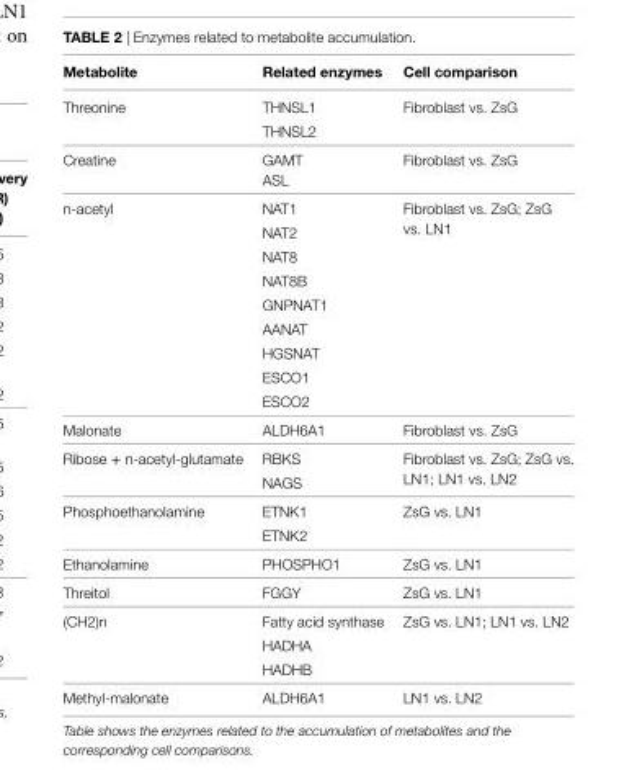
<table><thead><tr><td>Metabolite</td><td>related enzymes</td><td>cell comparison</td></tr></thead><tbody><tr><td rowspan="2">Threonine</td><td>THNSL1</td><td rowspan="2">Fibroblast vs. ZsG</td></tr><tr><td>THNSL2</td></tr><tr><td rowspan="2">Creatine</td><td>GAMT</td><td rowspan="2">Fibroblast vs. ZsG</td></tr><tr><td>ASL</td></tr><tr><td rowspan="9">n-acetyl</td><td>NAT1</td><td rowspan="9">Fibroblast vs. ZsG; ZsG vs. LN1</td></tr><tr><td>NAT2</td></tr><tr><td>NAT8</td></tr><tr><td>NAT8B</td></tr><tr><td>GNPNAT1</td></tr><tr><td>AANAT</td></tr><tr><td>HGSNAT</td></tr><tr><td>ESCO1</td></tr><tr><td>ESCO2</td></tr><tr><td>Malonate</td><td>ALDH6A1</td><td>Fibroblast vs. ZsG</td></tr><tr><td rowspan="2">Ribose + n-acetyl-glutamate</td><td>RBKS</td><td rowspan="2">Fibroblast vs. ZsG; ZsG vs. LN1; LN1 vs. LN2</td></tr><tr><td>NAGS</td></tr><tr><td rowspan="2">Phosphoethanolamine</td><td>ETNK1</td><td rowspan="2">ZsG vs. LN1</td></tr><tr><td>ETNK2</td></tr><tr><td>Ethanolamine</td><td>PHOSPHO1</td><td>ZsG vs. LN1</td></tr><tr><td>Threitol</td><td>FGGY</td><td>ZsG vs. LN1</td></tr><tr><td rowspan="3">(CH2)n</td><td>Fatty acid synthase</td><td rowspan="3">ZsG vs. LN1; LN1 vs. LN2</td></tr><tr><td>HADHA</td></tr><tr><td>HADHB</td></tr><tr><td>Methyl-malonate</td><td>ALDH6A1</td><td>LN1 vs. LN2</td></tr></tbody></table>